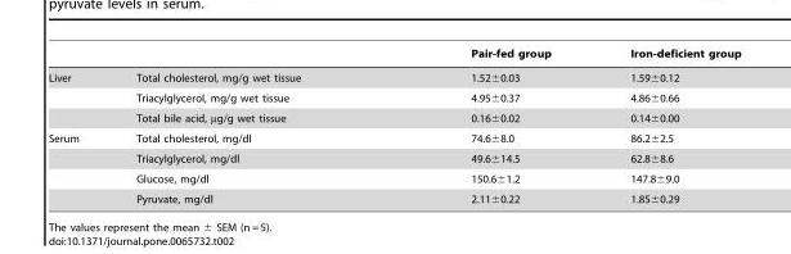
<table><thead><tr><td></td><td></td><td>Pair-fed group</td><td>Iron-deficient group</td></tr></thead><tbody><tr><td rowspan="3">Liver</td><td>Total cholesterol, mg/g wet tissue</td><td>1.52±0.03</td><td>1.59±0.12</td></tr><tr><td>Triacylglycerol, mg/g wet tissue</td><td>4.95±0.37</td><td>4.86±0.66</td></tr><tr><td>Total bile acid, µg/g wet tissue</td><td>0.16±0.02</td><td>0.14±0.00</td></tr><tr><td rowspan="4">Serum</td><td>Total cholesterol, mg/dl</td><td>74.6±8.0</td><td>86.2±2.5</td></tr><tr><td>Triacylglycerol, mg/dl</td><td>49.6±14.5</td><td>62.8±8.6</td></tr><tr><td>Glucose, mg/dl</td><td>150.6±1.2</td><td>147.8±9.0</td></tr><tr><td>Pyruvate, mg/dl</td><td>2.11±0.22</td><td>1.85±0.29</td></tr></tbody></table>